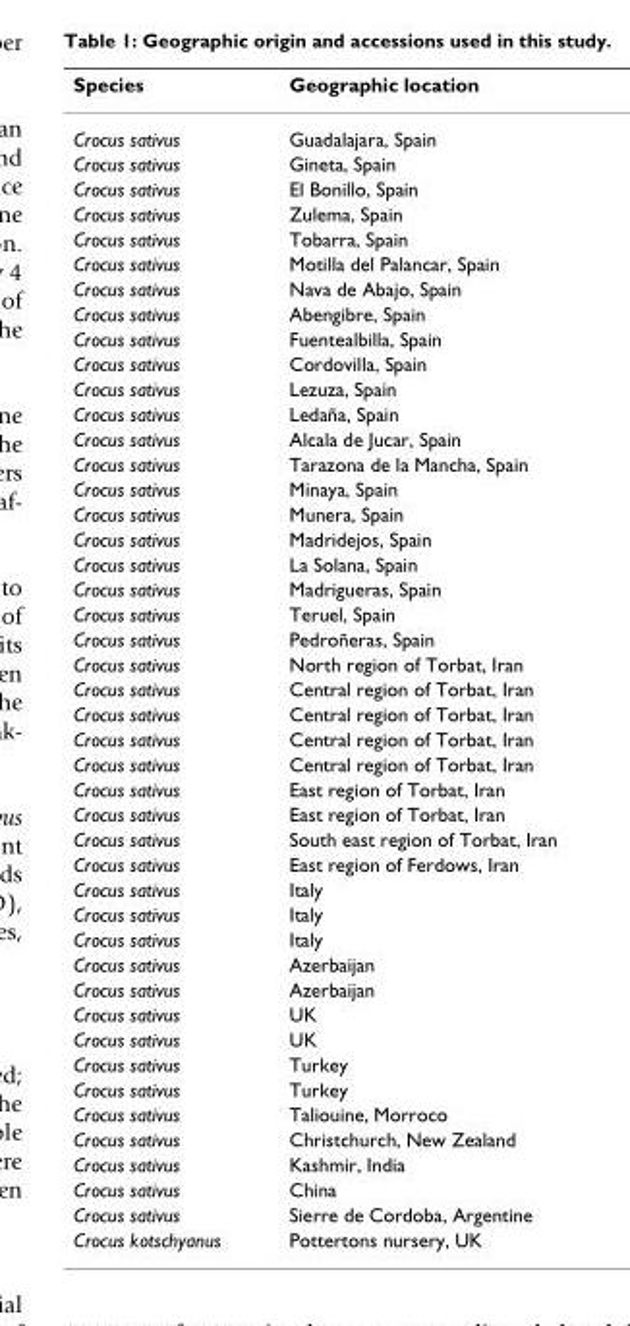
<table><thead><tr><td>Species</td><td>Geographic location</td></tr></thead><tbody><tr><td>Crocus sativus</td><td>Guadalajara, Spain</td></tr><tr><td>Crocus sativus</td><td>Gineta, Spain</td></tr><tr><td>Crocus sativus</td><td>El Bonillo, Spain</td></tr><tr><td>Crocus sativus</td><td>Zulema, Spain</td></tr><tr><td>Crocus sativus</td><td>Tobarra, Spain</td></tr><tr><td>Crocus sativus</td><td>Motilla del Palancar, Spain</td></tr><tr><td>Crocus sativus</td><td>Nava de Abajo, Spain</td></tr><tr><td>Crocus sativus</td><td>Abengibre, Spain</td></tr><tr><td>Crocus sativus</td><td>Fuentealbilla, Spain</td></tr><tr><td>Crocus sativus</td><td>Cordovilla, Spain</td></tr><tr><td>Crocus sativus</td><td>Lezuza, Spain</td></tr><tr><td>Crocus sativus</td><td>Ledaña, Spain</td></tr><tr><td>Crocus sativus</td><td>Alcala de Jucar, Spain</td></tr><tr><td>Crocus sativus</td><td>Tarazona de la Mancha, Spain</td></tr><tr><td>Crocus sativus</td><td>Minaya, Spain</td></tr><tr><td>Crocus sativus</td><td>Munera, Spain</td></tr><tr><td>Crocus sativus</td><td>Madridejos, Spain</td></tr><tr><td>Crocus sativus</td><td>La Solana, Spain</td></tr><tr><td>Crocus sativus</td><td>Madrigueras, Spain</td></tr><tr><td>Crocus sativus</td><td>Teruel, Spain</td></tr><tr><td>Crocus sativus</td><td>Pedroñeras, Spain</td></tr><tr><td>Crocus sativus</td><td>North region of Torbat, Iran</td></tr><tr><td>Crocus sativus</td><td>Central region of Torbat, Iran</td></tr><tr><td>Crocus sativus</td><td>Central region of Torbat, Iran</td></tr><tr><td>Crocus sativus</td><td>Central region of Torbat, Iran</td></tr><tr><td>Crocus sativus</td><td>Central region of Torbat, Iran</td></tr><tr><td>Crocus sativus</td><td>East region of Torbat, Iran</td></tr><tr><td>Crocus sativus</td><td>East region of Torbat, Iran</td></tr><tr><td>Crocus sativus</td><td>South east region of Torbat, Iran</td></tr><tr><td>Crocus sativus</td><td>East region of Ferdows, Iran</td></tr><tr><td>Crocus sativus</td><td>Italy</td></tr><tr><td>Crocus sativus</td><td>Italy</td></tr><tr><td>Crocus sativus</td><td>Italy</td></tr><tr><td>Crocus sativus</td><td>Azerbaijan</td></tr><tr><td>Crocus sativus</td><td>Azerbaijan</td></tr><tr><td>Crocus sativus</td><td>UK</td></tr><tr><td>Crocus sativus</td><td>UK</td></tr><tr><td>Crocus sativus</td><td>Turkey</td></tr><tr><td>Crocus sativus</td><td>Turkey</td></tr><tr><td>Crocus sativus</td><td>Taliouine, Morroco</td></tr><tr><td>Crocus sativus</td><td>Christchurch, New Zealand</td></tr><tr><td>Crocus sativus</td><td>Kashmir, India</td></tr><tr><td>Crocus sativus</td><td>China</td></tr><tr><td>Crocus sativus</td><td>Sierre de Cordoba, Argentine</td></tr><tr><td>Crocus kotschyanus</td><td>Pottertons nursery, UK</td></tr></tbody></table>